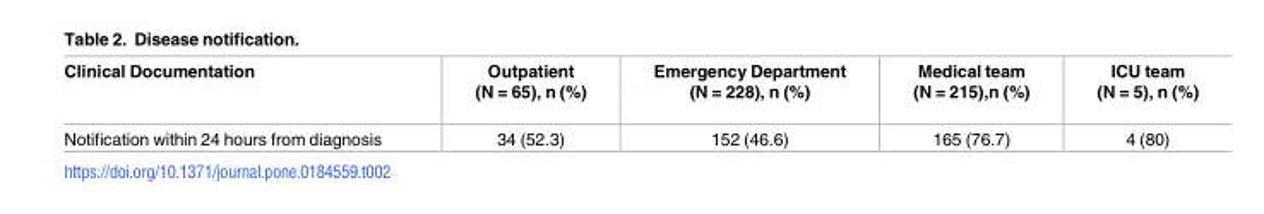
<table><thead><tr><td>Clinical Documentation</td><td>Outpatient (N = 65), n (%)</td><td>Emergency Department (N = 228), n (%)</td><td>Medical team (N = 215),n (%)</td><td>ICU team (N = 5), n (%)</td></tr></thead><tbody><tr><td>Notification within 24 hours from diagnosis</td><td>34 (52.3)</td><td>152 (46.6)</td><td>165 (76.7)</td><td>4 (80)</td></tr></tbody></table>